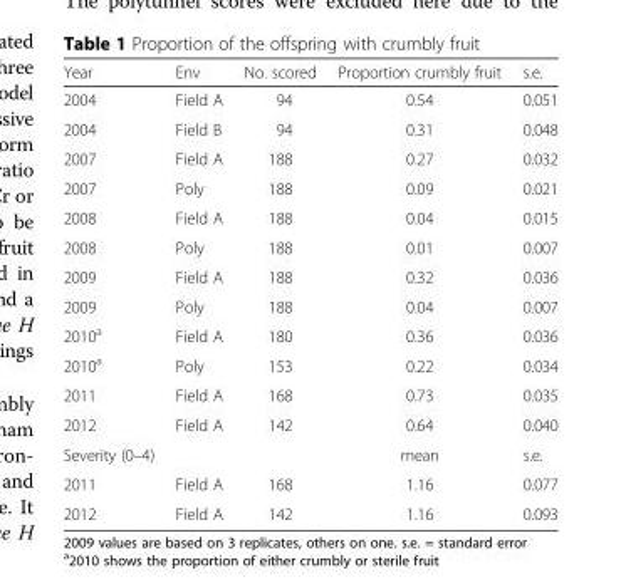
<table><thead><tr><td>Year</td><td>Env</td><td>No. scored</td><td>Proportion crumbly fruit</td><td>s.e.</td></tr></thead><tbody><tr><td>2004</td><td>Field A</td><td>94</td><td>0.54</td><td>0.051</td></tr><tr><td>2004</td><td>Field B</td><td>94</td><td>0.31</td><td>0.048</td></tr><tr><td>2007</td><td>Field A</td><td>188</td><td>0.27</td><td>0.032</td></tr><tr><td>2007</td><td>Poly</td><td>188</td><td>0.09</td><td>0.021</td></tr><tr><td>2008</td><td>Field A</td><td>188</td><td>0.04</td><td>0.015</td></tr><tr><td>2008</td><td>Poly</td><td>188</td><td>0.01</td><td>0.007</td></tr><tr><td>2009</td><td>Field A</td><td>188</td><td>0.32</td><td>0.036</td></tr><tr><td>2009</td><td>Poly</td><td>188</td><td>0.04</td><td>0.007</td></tr><tr><td>2010<sup>a</sup></td><td>Field A</td><td>180</td><td>0.36</td><td>0.036</td></tr><tr><td>2010<sup>a</sup></td><td>Poly</td><td>153</td><td>0.22</td><td>0.034</td></tr><tr><td>2011</td><td>Field A</td><td>168</td><td>0.73</td><td>0.035</td></tr><tr><td>2012</td><td>Field A</td><td>142</td><td>0.64</td><td>0.040</td></tr><tr><td>Severity (0–4)</td><td></td><td></td><td>mean</td><td>s.e.</td></tr><tr><td>2011</td><td>Field A</td><td>168</td><td>1.16</td><td>0.077</td></tr><tr><td>2012</td><td>Field A</td><td>142</td><td>1.16</td><td>0.093</td></tr></tbody></table>